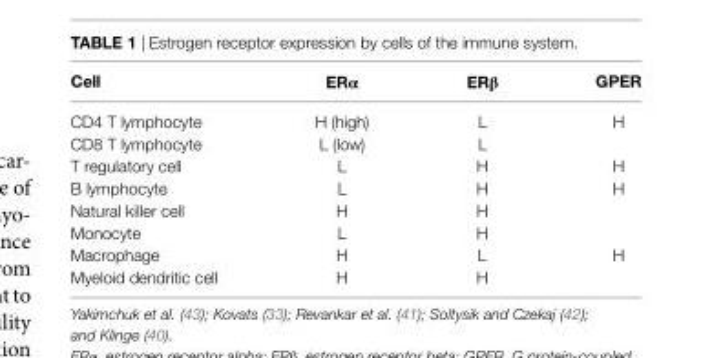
<table><thead><tr><td>Cell</td><td>eRα</td><td>eRβ</td><td>GPeR</td></tr></thead><tbody><tr><td>CD4 T lymphocyte</td><td>H (high)</td><td>L</td><td>H</td></tr><tr><td>CD8 T lymphocyte</td><td>L (low)</td><td>L</td><td></td></tr><tr><td>T regulatory cell</td><td>L</td><td>H</td><td>H</td></tr><tr><td>B lymphocyte</td><td>L</td><td>H</td><td>H</td></tr><tr><td>Natural killer cell</td><td>H</td><td>H</td><td></td></tr><tr><td>Monocyte</td><td>L</td><td>H</td><td></td></tr><tr><td>Macrophage</td><td>H</td><td>L</td><td>H</td></tr><tr><td>Myeloid dendritic cell</td><td>H</td><td>H</td><td></td></tr></tbody></table>